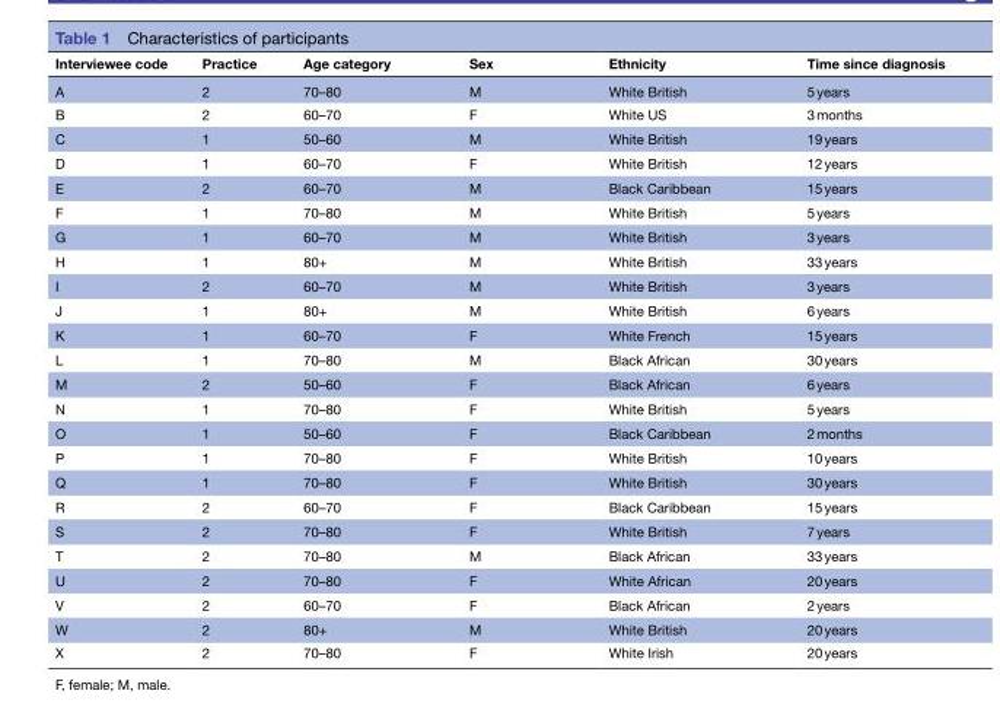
<table><thead><tr><td>Interviewee code</td><td>Practice</td><td>Age category</td><td>Sex</td><td>Ethnicity</td><td>Time since diagnosis</td></tr></thead><tbody><tr><td>A</td><td>2</td><td>70–80</td><td>M</td><td>White British</td><td>5 years</td></tr><tr><td>B</td><td>2</td><td>60–70</td><td>F</td><td>White US</td><td>3 months</td></tr><tr><td>C</td><td>1</td><td>50–60</td><td>M</td><td>White British</td><td>19 years</td></tr><tr><td>D</td><td>1</td><td>60–70</td><td>F</td><td>White British</td><td>12 years</td></tr><tr><td>E</td><td>2</td><td>60–70</td><td>M</td><td>Black Caribbean</td><td>15 years</td></tr><tr><td>F</td><td>1</td><td>70–80</td><td>M</td><td>White British</td><td>5 years</td></tr><tr><td>G</td><td>1</td><td>60–70</td><td>M</td><td>White British</td><td>3 years</td></tr><tr><td>H</td><td>1</td><td>80+</td><td>M</td><td>White British</td><td>33 years</td></tr><tr><td>I</td><td>2</td><td>60–70</td><td>M</td><td>White British</td><td>3 years</td></tr><tr><td>J</td><td>1</td><td>80+</td><td>M</td><td>White British</td><td>6 years</td></tr><tr><td>K</td><td>1</td><td>60–70</td><td>F</td><td>White French</td><td>15 years</td></tr><tr><td>L</td><td>1</td><td>70–80</td><td>M</td><td>Black African</td><td>30 years</td></tr><tr><td>M</td><td>2</td><td>50–60</td><td>F</td><td>Black African</td><td>6 years</td></tr><tr><td>N</td><td>1</td><td>70–80</td><td>F</td><td>White British</td><td>5 years</td></tr><tr><td>O</td><td>1</td><td>50–60</td><td>F</td><td>Black Caribbean</td><td>2 months</td></tr><tr><td>P</td><td>1</td><td>70–80</td><td>F</td><td>White British</td><td>10 years</td></tr><tr><td>Q</td><td>1</td><td>70–80</td><td>F</td><td>White British</td><td>30 years</td></tr><tr><td>R</td><td>2</td><td>60–70</td><td>F</td><td>Black Caribbean</td><td>15 years</td></tr><tr><td>S</td><td>2</td><td>70–80</td><td>F</td><td>White British</td><td>7 years</td></tr><tr><td>T</td><td>2</td><td>70–80</td><td>M</td><td>Black African</td><td>33 years</td></tr><tr><td>U</td><td>2</td><td>70–80</td><td>F</td><td>White African</td><td>20 years</td></tr><tr><td>V</td><td>2</td><td>60–70</td><td>F</td><td>Black African</td><td>2 years</td></tr><tr><td>W</td><td>2</td><td>80+</td><td>M</td><td>White British</td><td>20 years</td></tr><tr><td>X</td><td>2</td><td>70–80</td><td>F</td><td>White Irish</td><td>20 years</td></tr></tbody></table>